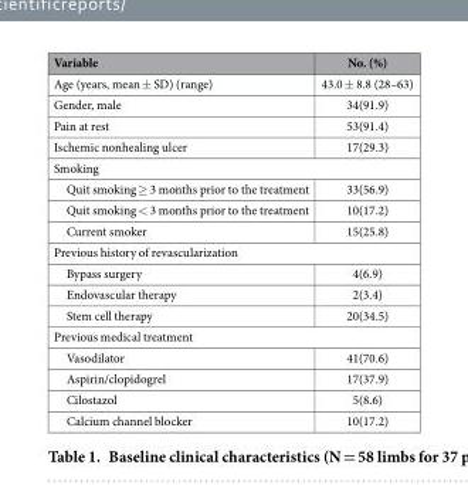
<table><thead><tr><td>Variable</td><td>No. (%)</td></tr></thead><tbody><tr><td>Age (years, mean ± SD) (range)</td><td>43.0 ± 8.8 (28–63)</td></tr><tr><td>Gender, male</td><td>34(91.9)</td></tr><tr><td>Pain at rest</td><td>53(91.4)</td></tr><tr><td>Ischemic nonhealing ulcer</td><td>17(29.3)</td></tr><tr><td colspan="2">Smoking</td></tr><tr><td>Quit smoking ≥ 3 months prior to the treatment</td><td>33(56.9)</td></tr><tr><td>Quit smoking &lt; 3 months prior to the treatment</td><td>10(17.2)</td></tr><tr><td>Current smoker</td><td>15(25.8)</td></tr><tr><td colspan="2">Previous history of revascularization</td></tr><tr><td>Bypass surgery</td><td>4(6.9)</td></tr><tr><td>Endovascular therapy</td><td>2(3.4)</td></tr><tr><td>Stem cell therapy</td><td>20(34.5)</td></tr><tr><td colspan="2">Previous medical treatment</td></tr><tr><td>Vasodilator</td><td>41(70.6)</td></tr><tr><td>Aspirin/clopidogrel</td><td>17(37.9)</td></tr><tr><td>Cilostazol</td><td>5(8.6)</td></tr><tr><td>Calcium channel blocker</td><td>10(17.2)</td></tr></tbody></table>